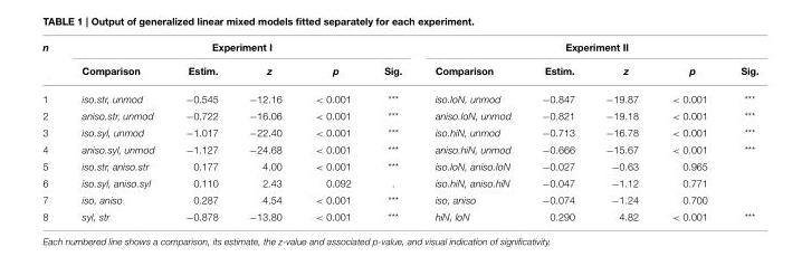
<table><thead><tr><td rowspan="2">n</td><td colspan="5">Experiment I</td><td colspan="5">Experiment II</td></tr><tr><td>Comparison</td><td>Estim.</td><td>z</td><td>p</td><td>Sig.</td><td>Comparison</td><td>Estim.</td><td>z</td><td>p</td><td>Sig.</td></tr></thead><tbody><tr><td>1</td><td>iso.str, unmod</td><td>−0.545</td><td>−12.16</td><td>&lt; 0.001</td><td>***</td><td>iso.loN, unmod</td><td>−0.847</td><td>−19.87</td><td>&lt; 0.001</td><td>***</td></tr><tr><td>2</td><td>aniso.str, unmod</td><td>−0.722</td><td>−16.06</td><td>&lt; 0.001</td><td>***</td><td>aniso.loN, unmod</td><td>−0.821</td><td>−19.18</td><td>&lt; 0.001</td><td>***</td></tr><tr><td>3</td><td>iso.syl, unmod</td><td>−1.017</td><td>−22.40</td><td>&lt; 0.001</td><td>***</td><td>iso.hiN, unmod</td><td>−0.713</td><td>−16.78</td><td>&lt; 0.001</td><td>***</td></tr><tr><td>4</td><td>aniso.syl, unmod</td><td>−1.127</td><td>−24.68</td><td>&lt; 0.001</td><td>***</td><td>aniso.hiN, unmod</td><td>−0.666</td><td>−15.67</td><td>&lt; 0.001</td><td>***</td></tr><tr><td>5</td><td>iso.str, aniso.str</td><td>0.177</td><td>4.00</td><td>&lt; 0.001</td><td>***</td><td>iso.loN, aniso.loN</td><td>−0.027</td><td>−0.63</td><td>0.965</td><td></td></tr><tr><td>6</td><td>iso.syl, aniso.syl</td><td>0.110</td><td>2.43</td><td>0.092</td><td>.</td><td>iso.hiN, aniso.hiN</td><td>−0.047</td><td>−1.12</td><td>0.771</td><td></td></tr><tr><td>7</td><td>iso, aniso</td><td>0.287</td><td>4.54</td><td>&lt; 0.001</td><td>***</td><td>iso, aniso</td><td>−0.074</td><td>−1.24</td><td>0.700</td><td></td></tr><tr><td>8</td><td>syl, str</td><td>−0.878</td><td>−13.80</td><td>&lt; 0.001</td><td>***</td><td>hiN, loN</td><td>0.290</td><td>4.82</td><td>&lt; 0.001</td><td>***</td></tr></tbody></table>